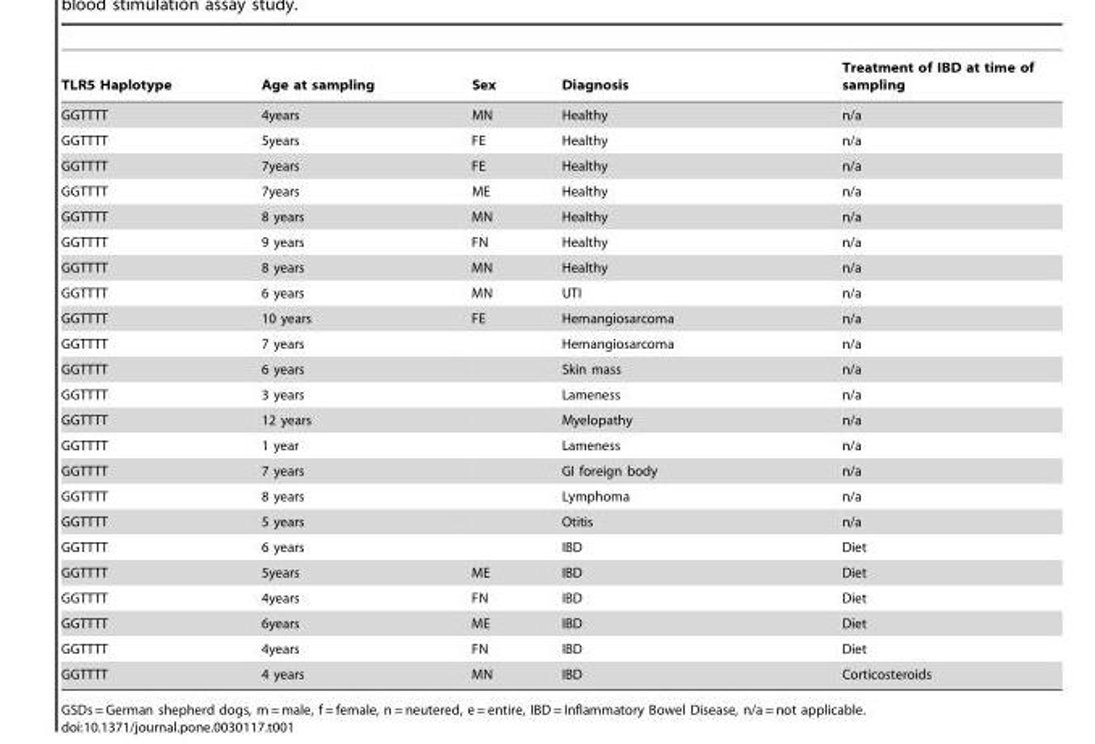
<table><thead><tr><td>TLR5 Haplotype</td><td>Age at sampling</td><td>Sex</td><td>Diagnosis</td><td>Treatment of IBD at time of sampling</td></tr></thead><tbody><tr><td>GGTTTT</td><td>4years</td><td>MN</td><td>Healthy</td><td>n/a</td></tr><tr><td>GGTTTT</td><td>5years</td><td>FE</td><td>Healthy</td><td>n/a</td></tr><tr><td>GGTTTT</td><td>7years</td><td>FE</td><td>Healthy</td><td>n/a</td></tr><tr><td>GGTTTT</td><td>7years</td><td>ME</td><td>Healthy</td><td>n/a</td></tr><tr><td>GGTTTT</td><td>8 years</td><td>MN</td><td>Healthy</td><td>n/a</td></tr><tr><td>GGTTTT</td><td>9 years</td><td>FN</td><td>Healthy</td><td>n/a</td></tr><tr><td>GGTTTT</td><td>8 years</td><td>MN</td><td>Healthy</td><td>n/a</td></tr><tr><td>GGTTTT</td><td>6 years</td><td>MN</td><td>UTI</td><td>n/a</td></tr><tr><td>GGTTTT</td><td>10 years</td><td>FE</td><td>Hemangiosarcoma</td><td>n/a</td></tr><tr><td>GGTTTT</td><td>7 years</td><td></td><td>Hemangiosarcoma</td><td>n/a</td></tr><tr><td>GGTTTT</td><td>6 years</td><td></td><td>Skin mass</td><td>n/a</td></tr><tr><td>GGTTTT</td><td>3 years</td><td></td><td>Lameness</td><td>n/a</td></tr><tr><td>GGTTTT</td><td>12 years</td><td></td><td>Myelopathy</td><td>n/a</td></tr><tr><td>GGTTTT</td><td>1 year</td><td></td><td>Lameness</td><td>n/a</td></tr><tr><td>GGTTTT</td><td>7 years</td><td></td><td>GI foreign body</td><td>n/a</td></tr><tr><td>GGTTTT</td><td>8 years</td><td></td><td>Lymphoma</td><td>n/a</td></tr><tr><td>GGTTTT</td><td>5 years</td><td></td><td>Otitis</td><td>n/a</td></tr><tr><td>GGTTTT</td><td>6 years</td><td></td><td>IBD</td><td>Diet</td></tr><tr><td>GGTTTT</td><td>5years</td><td>ME</td><td>IBD</td><td>Diet</td></tr><tr><td>GGTTTT</td><td>4years</td><td>FN</td><td>IBD</td><td>Diet</td></tr><tr><td>GGTTTT</td><td>6years</td><td>ME</td><td>IBD</td><td>Diet</td></tr><tr><td>GGTTTT</td><td>4years</td><td>FN</td><td>IBD</td><td>Diet</td></tr><tr><td>GGTTTT</td><td>4 years</td><td>MN</td><td>IBD</td><td>Corticosteroids</td></tr></tbody></table>